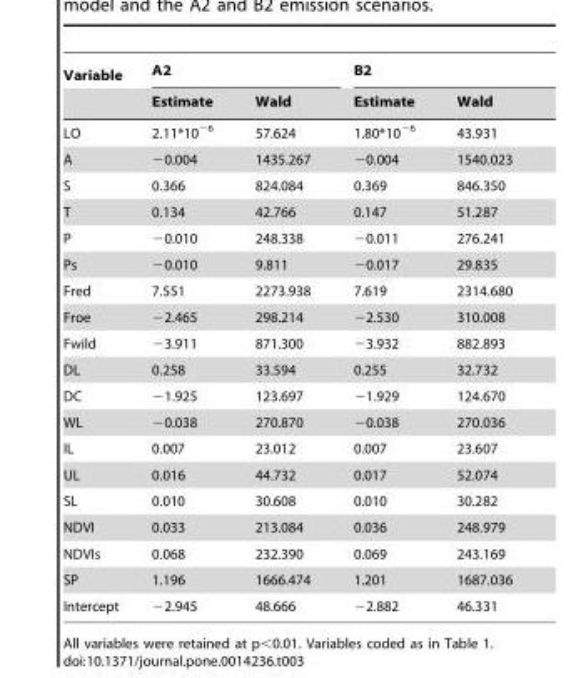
<table><thead><tr><td rowspan="2">Variable</td><td colspan="2">A2</td><td colspan="2">B2</td></tr><tr><td>Estimate</td><td>Wald</td><td>Estimate</td><td>Wald</td></tr></thead><tbody><tr><td>LO</td><td>2.11*10<sup>−6</sup></td><td>57.624</td><td>1.80*10<sup>−6</sup></td><td>43.931</td></tr><tr><td>A</td><td>−0.004</td><td>1435.267</td><td>−0.004</td><td>1540.023</td></tr><tr><td>S</td><td>0.366</td><td>824.084</td><td>0.369</td><td>846.350</td></tr><tr><td>T</td><td>0.134</td><td>42.766</td><td>0.147</td><td>51.287</td></tr><tr><td>P</td><td>−0.010</td><td>248.338</td><td>−0.011</td><td>276.241</td></tr><tr><td>Ps</td><td>−0.010</td><td>9.811</td><td>−0.017</td><td>29.835</td></tr><tr><td>Fred</td><td>7.551</td><td>2273.938</td><td>7.619</td><td>2314.680</td></tr><tr><td>Froe</td><td>−2.465</td><td>298.214</td><td>−2.530</td><td>310.008</td></tr><tr><td>Fwild</td><td>−3.911</td><td>871.300</td><td>−3.932</td><td>882.893</td></tr><tr><td>DL</td><td>0.258</td><td>33.594</td><td>0.255</td><td>32.732</td></tr><tr><td>DC</td><td>−1.925</td><td>123.697</td><td>−1.929</td><td>124.670</td></tr><tr><td>WL</td><td>−0.038</td><td>270.870</td><td>−0.038</td><td>270.036</td></tr><tr><td>IL</td><td>0.007</td><td>23.012</td><td>0.007</td><td>23.607</td></tr><tr><td>UL</td><td>0.016</td><td>44.732</td><td>0.017</td><td>52.074</td></tr><tr><td>SL</td><td>0.010</td><td>30.608</td><td>0.010</td><td>30.282</td></tr><tr><td>NDVI</td><td>0.033</td><td>213.084</td><td>0.036</td><td>248.979</td></tr><tr><td>NDVIs</td><td>0.068</td><td>232.390</td><td>0.069</td><td>243.169</td></tr><tr><td>SP</td><td>1.196</td><td>1666.474</td><td>1.201</td><td>1687.036</td></tr><tr><td>Intercept</td><td>−2.945</td><td>48.666</td><td>−2.882</td><td>46.331</td></tr></tbody></table>